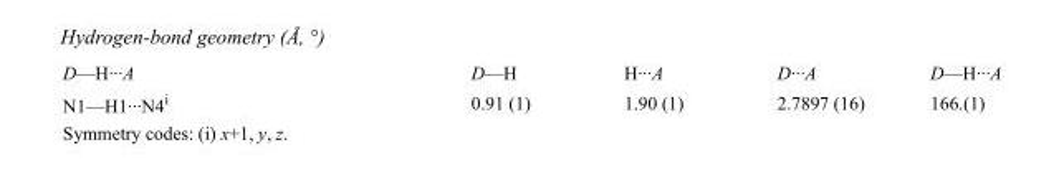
<table><tbody><tr><td>D—H···A</td><td>D—H</td><td>H···A</td><td>D···A</td><td>D—H···A</td></tr><tr><td>N1—H1···N4<sup>i</sup></td><td>0.91 (1)</td><td>1.90 (1)</td><td>2.7897 (16)</td><td>166.(1)</td></tr></tbody></table>